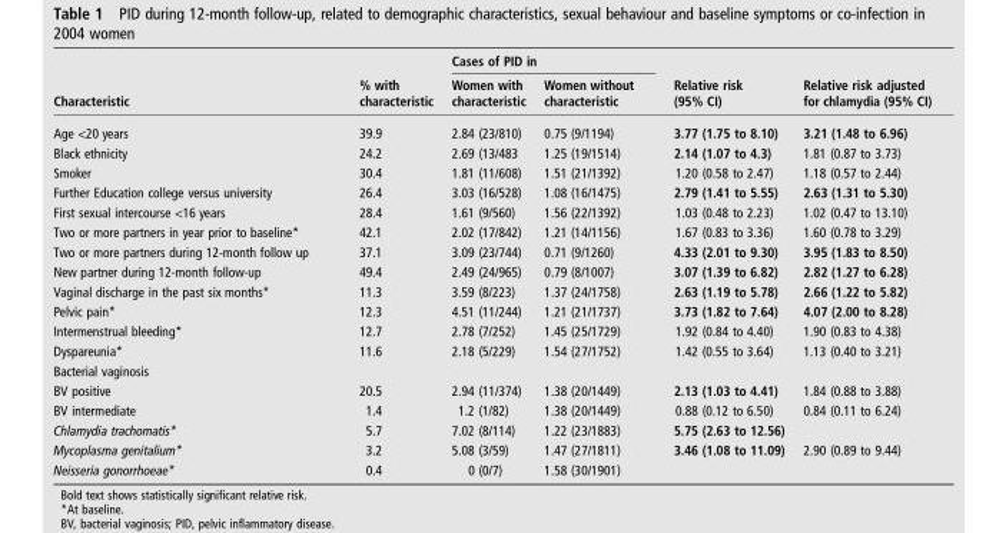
<table><thead><tr><td rowspan="2">Characteristic</td><td rowspan="2">% with characteristic</td><td colspan="2">Cases of PID in</td><td rowspan="2">Relative risk (95% CI)</td><td rowspan="2">Relative risk adjusted for chlamydia (95% CI)</td></tr><tr><td>Women with characteristic</td><td>Women without characteristic</td></tr></thead><tbody><tr><td>Age &lt;20 years</td><td>39.9</td><td>2.84 (23/810)</td><td>0.75 (9/1194)</td><td>3.77 (1.75 to 8.10)</td><td>3.21 (1.48 to 6.96)</td></tr><tr><td>Black ethnicity</td><td>24.2</td><td>2.69 (13/483</td><td>1.25 (19/1514)</td><td>2.14 (1.07 to 4.3)</td><td>1.81 (0.87 to 3.73)</td></tr><tr><td>Smoker</td><td>30.4</td><td>1.81 (11/608)</td><td>1.51 (21/1392)</td><td>1.20 (0.58 to 2.47)</td><td>1.18 (0.57 to 2.44)</td></tr><tr><td>Further Education college versus university</td><td>26.4</td><td>3.03 (16/528)</td><td>1.08 (16/1475)</td><td>2.79 (1.41 to 5.55)</td><td>2.63 (1.31 to 5.30)</td></tr><tr><td>First sexual intercourse &lt;16 years</td><td>28.4</td><td>1.61 (9/560)</td><td>1.56 (22/1392)</td><td>1.03 (0.48 to 2.23)</td><td>1.02 (0.47 to 13.10)</td></tr><tr><td>Two or more partners in year prior to baseline*</td><td>42.1</td><td>2.02 (17/842)</td><td>1.21 (14/1156)</td><td>1.67 (0.83 to 3.36)</td><td>1.60 (0.78 to 3.29)</td></tr><tr><td>Two or more partners during 12-month follow up</td><td>37.1</td><td>3.09 (23/744)</td><td>0.71 (9/1260)</td><td>4.33 (2.01 to 9.30)</td><td>3.95 (1.83 to 8.50)</td></tr><tr><td>New partner during 12-month follow-up</td><td>49.4</td><td>2.49 (24/965)</td><td>0.79 (8/1007)</td><td>3.07 (1.39 to 6.82)</td><td>2.82 (1.27 to 6.28)</td></tr><tr><td>Vaginal discharge in the past six months*</td><td>11.3</td><td>3.59 (8/223)</td><td>1.37 (24/1758)</td><td>2.63 (1.19 to 5.78)</td><td>2.66 (1.22 to 5.82)</td></tr><tr><td>Pelvic pain*</td><td>12.3</td><td>4.51 (11/244)</td><td>1.21 (21/1737)</td><td>3.73 (1.82 to 7.64)</td><td>4.07 (2.00 to 8.28)</td></tr><tr><td>Intermenstrual bleeding*</td><td>12.7</td><td>2.78 (7/252)</td><td>1.45 (25/1729)</td><td>1.92 (0.84 to 4.40)</td><td>1.90 (0.83 to 4.38)</td></tr><tr><td>Dyspareunia*</td><td>11.6</td><td>2.18 (5/229)</td><td>1.54 (27/1752)</td><td>1.42 (0.55 to 3.64)</td><td>1.13 (0.40 to 3.21)</td></tr><tr><td colspan="6">Bacterial vaginosis</td></tr><tr><td>BV positive</td><td>20.5</td><td>2.94 (11/374)</td><td>1.38 (20/1449)</td><td>2.13 (1.03 to 4.41)</td><td>1.84 (0.88 to 3.88)</td></tr><tr><td>BV intermediate</td><td>1.4</td><td>1.2 (1/82)</td><td>1.38 (20/1449)</td><td>0.88 (0.12 to 6.50)</td><td>0.84 (0.11 to 6.24)</td></tr><tr><td>Chlamydia trachomatis*</td><td>5.7</td><td>7.02 (8/114)</td><td>1.22 (23/1883)</td><td>5.75 (2.63 to 12.56)</td><td></td></tr><tr><td>Mycoplasma genitalium*</td><td>3.2</td><td>5.08 (3/59)</td><td>1.47 (27/1811)</td><td>3.46 (1.08 to 11.09)</td><td>2.90 (0.89 to 9.44)</td></tr><tr><td>Neisseria gonorrhoeae*</td><td>0.4</td><td>0 (0/7)</td><td>1.58 (30/1901)</td><td></td><td></td></tr></tbody></table>